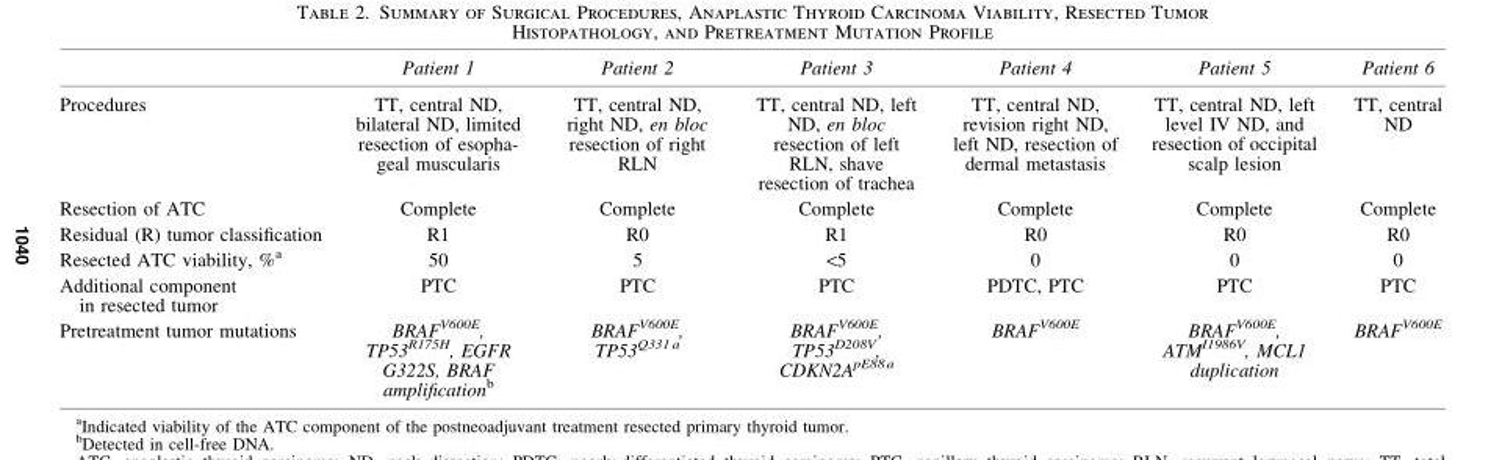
<table><thead><tr><td></td><td>Patient 1</td><td>Patient 2</td><td>Patient 3</td><td>Patient 4</td><td>Patient 5</td><td>Patient 6</td></tr></thead><tbody><tr><td>Procedures</td><td>TT, central ND, bilateral ND, limited resection of esopha- geal muscularis</td><td>TT, central ND, right ND, en bloc resection of right RLN</td><td>TT, central ND, left ND, en bloc resection of left RLN, shave resection of trachea</td><td>TT, central ND, revision right ND, left ND, resection of dermal metastasis</td><td>TT, central ND, left level IV ND, and resection of occipital scalp lesion</td><td>TT, central ND</td></tr><tr><td>Resection of ATC</td><td>Complete</td><td>Complete</td><td>Complete</td><td>Complete</td><td>Complete</td><td>Complete</td></tr><tr><td>Residual (R) tumor classification</td><td>R1</td><td>R0</td><td>R1</td><td>R0</td><td>R0</td><td>R0</td></tr><tr><td>Resected ATC viability, %<sup>a</sup></td><td>50</td><td>5</td><td>&lt;5</td><td>0</td><td>0</td><td>0</td></tr><tr><td>Additional component in resected tumor</td><td>PTC</td><td>PTC</td><td>PTC</td><td>PDTC, PTC</td><td>PTC</td><td>PTC</td></tr><tr><td>Pretreatment tumor mutations</td><td>BRAF<sup>V600E</sup>, TP53<sup>R175H</sup>, EGFR G322S, BRAF amplification<sup>b</sup></td><td>BRAF<sup>V600E</sup>, TP53<sup>Q331 a</sup></td><td>BRAF<sup>V600E</sup>, TP53<sup>D208V</sup>, CDKN2A<sup>pE88 a</sup></td><td>BRAF<sup>V600E</sup></td><td>BRAF<sup>V600E</sup>, ATM<sup>I1986V</sup>, MCL1 duplication</td><td>BRAF<sup>V600E</sup></td></tr></tbody></table>